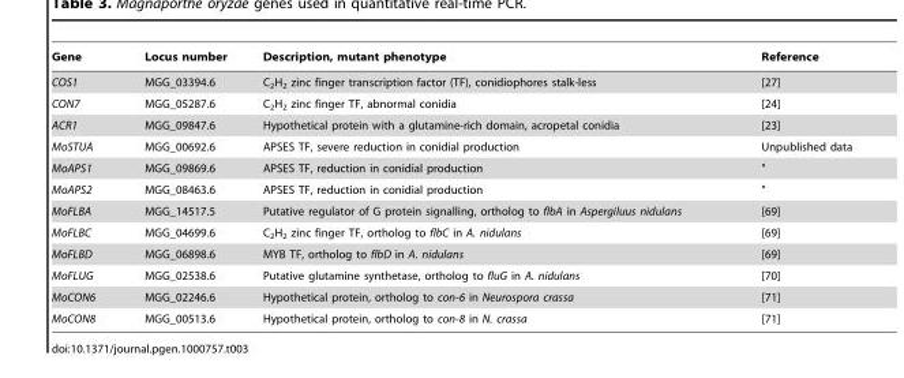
<table><thead><tr><td>Gene</td><td>Locus number</td><td>Description, mutant phenotype</td><td>Reference</td></tr></thead><tbody><tr><td>COS1</td><td>MGG_03394.6</td><td>C<sub>2</sub>H<sub>2</sub> zinc finger transcription factor (TF), conidiophores stalk-less</td><td>[27]</td></tr><tr><td>CON7</td><td>MGG_05287.6</td><td>C<sub>2</sub>H<sub>2</sub> zinc finger TF, abnormal conidia</td><td>[24]</td></tr><tr><td>ACR1</td><td>MGG_09847.6</td><td>Hypothetical protein with a glutamine-rich domain, acropetal conidia</td><td>[23]</td></tr><tr><td>MoSTUA</td><td>MGG_00692.6</td><td>APSES TF, severe reduction in conidial production</td><td>Unpublished data</td></tr><tr><td>MoAPS1</td><td>MGG_09869.6</td><td>APSES TF, reduction in conidial production</td><td>&quot;</td></tr><tr><td>MoAPS2</td><td>MGG_08463.6</td><td>APSES TF, reduction in conidial production</td><td>&quot;</td></tr><tr><td>MoFLBA</td><td>MGG_14517.5</td><td>Putative regulator of G protein signalling, ortholog to flbA in Aspergiluus nidulans</td><td>[69]</td></tr><tr><td>MoFLBC</td><td>MGG_04699.6</td><td>C<sub>2</sub>H<sub>2</sub> zinc finger TF, ortholog to flbC in A. nidulans</td><td>[69]</td></tr><tr><td>MoFLBD</td><td>MGG_06898.6</td><td>MYB TF, ortholog to flbD in A. nidulans</td><td>[69]</td></tr><tr><td>MoFLUG</td><td>MGG_02538.6</td><td>Putative glutamine synthetase, ortholog to fluG in A. nidulans</td><td>[70]</td></tr><tr><td>MoCON6</td><td>MGG_02246.6</td><td>Hypothetical protein, ortholog to con-6 in Neurospora crassa</td><td>[71]</td></tr><tr><td>MoCON8</td><td>MGG_00513.6</td><td>Hypothetical protein, ortholog to con-8 in N. crassa</td><td>[71]</td></tr></tbody></table>